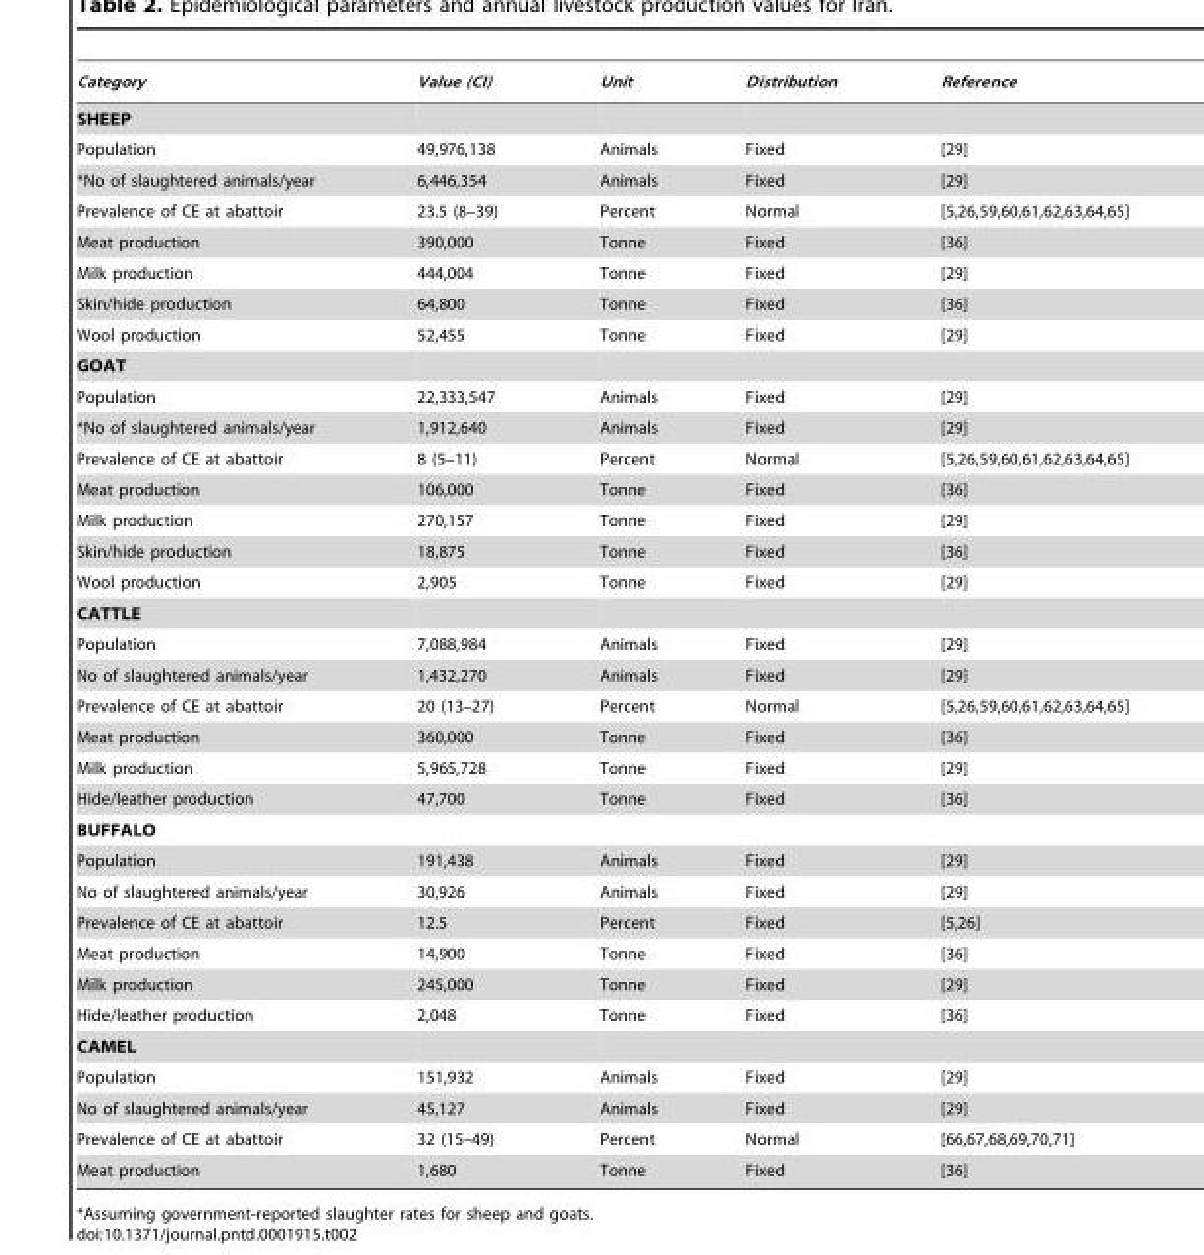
<table><thead><tr><td>Category</td><td>Value (CI)</td><td>Unit</td><td>Distribution</td><td>Reference</td></tr></thead><tbody><tr><td colspan="5">SHEEP</td></tr><tr><td>Population</td><td>49,976,138</td><td>Animals</td><td>Fixed</td><td>[29]</td></tr><tr><td>*No of slaughtered animals/year</td><td>6,446,354</td><td>Animals</td><td>Fixed</td><td>[29]</td></tr><tr><td>Prevalence of CE at abattoir</td><td>23.5 (8–39)</td><td>Percent</td><td>Normal</td><td>[5,26,59,60,61,62,63,64,65]</td></tr><tr><td>Meat production</td><td>390,000</td><td>Tonne</td><td>Fixed</td><td>[36]</td></tr><tr><td>Milk production</td><td>444,004</td><td>Tonne</td><td>Fixed</td><td>[29]</td></tr><tr><td>Skin/hide production</td><td>64,800</td><td>Tonne</td><td>Fixed</td><td>[36]</td></tr><tr><td>Wool production</td><td>52,455</td><td>Tonne</td><td>Fixed</td><td>[29]</td></tr><tr><td colspan="5">GOAT</td></tr><tr><td>Population</td><td>22,333,547</td><td>Animals</td><td>Fixed</td><td>[29]</td></tr><tr><td>*No of slaughtered animals/year</td><td>1,912,640</td><td>Animals</td><td>Fixed</td><td>[29]</td></tr><tr><td>Prevalence of CE at abattoir</td><td>8 (5–11)</td><td>Percent</td><td>Normal</td><td>[5,26,59,60,61,62,63,64,65]</td></tr><tr><td>Meat production</td><td>106,000</td><td>Tonne</td><td>Fixed</td><td>[36]</td></tr><tr><td>Milk production</td><td>270,157</td><td>Tonne</td><td>Fixed</td><td>[29]</td></tr><tr><td>Skin/hide production</td><td>18,875</td><td>Tonne</td><td>Fixed</td><td>[36]</td></tr><tr><td>Wool production</td><td>2,905</td><td>Tonne</td><td>Fixed</td><td>[29]</td></tr><tr><td colspan="5">CATTLE</td></tr><tr><td>Population</td><td>7,088,984</td><td>Animals</td><td>Fixed</td><td>[29]</td></tr><tr><td>No of slaughtered animals/year</td><td>1,432,270</td><td>Animals</td><td>Fixed</td><td>[29]</td></tr><tr><td>Prevalence of CE at abattoir</td><td>20 (13–27)</td><td>Percent</td><td>Normal</td><td>[5,26,59,60,61,62,63,64,65]</td></tr><tr><td>Meat production</td><td>360,000</td><td>Tonne</td><td>Fixed</td><td>[36]</td></tr><tr><td>Milk production</td><td>5,965,728</td><td>Tonne</td><td>Fixed</td><td>[29]</td></tr><tr><td>Hide/leather production</td><td>47,700</td><td>Tonne</td><td>Fixed</td><td>[36]</td></tr><tr><td colspan="5">BUFFALO</td></tr><tr><td>Population</td><td>191,438</td><td>Animals</td><td>Fixed</td><td>[29]</td></tr><tr><td>No of slaughtered animals/year</td><td>30,926</td><td>Animals</td><td>Fixed</td><td>[29]</td></tr><tr><td>Prevalence of CE at abattoir</td><td>12.5</td><td>Percent</td><td>Fixed</td><td>[5,26]</td></tr><tr><td>Meat production</td><td>14,900</td><td>Tonne</td><td>Fixed</td><td>[36]</td></tr><tr><td>Milk production</td><td>245,000</td><td>Tonne</td><td>Fixed</td><td>[29]</td></tr><tr><td>Hide/leather production</td><td>2,048</td><td>Tonne</td><td>Fixed</td><td>[36]</td></tr><tr><td colspan="5">CAMEL</td></tr><tr><td>Population</td><td>151,932</td><td>Animals</td><td>Fixed</td><td>[29]</td></tr><tr><td>No of slaughtered animals/year</td><td>45,127</td><td>Animals</td><td>Fixed</td><td>[29]</td></tr><tr><td>Prevalence of CE at abattoir</td><td>32 (15–49)</td><td>Percent</td><td>Normal</td><td>[66,67,68,69,70,71]</td></tr><tr><td>Meat production</td><td>1,680</td><td>Tonne</td><td>Fixed</td><td>[36]</td></tr></tbody></table>